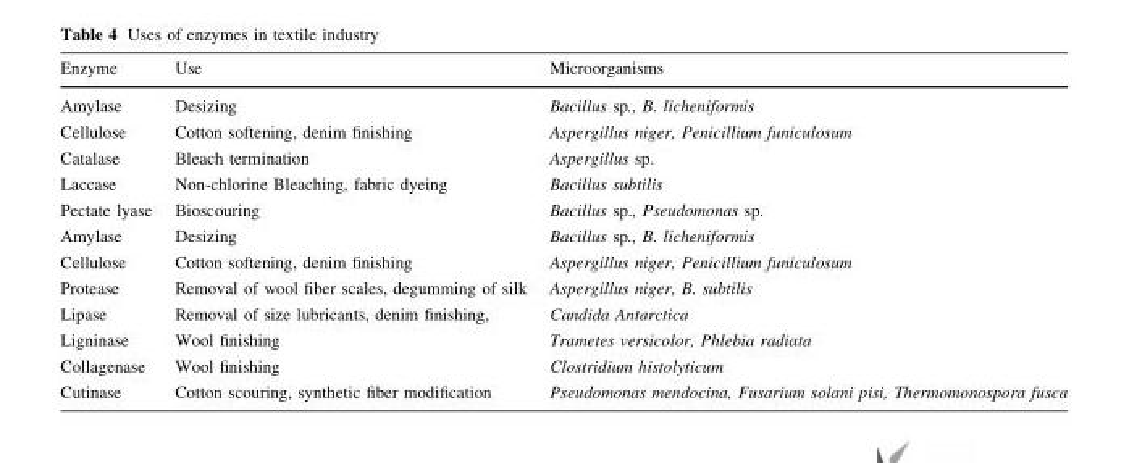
<table><thead><tr><td>Enzyme</td><td>Use</td><td>Microorganisms</td></tr></thead><tbody><tr><td>Amylase</td><td>Desizing</td><td>Bacillus sp., B. licheniformis</td></tr><tr><td>Cellulose</td><td>Cotton softening, denim finishing</td><td>Aspergillus niger, Penicillium funiculosum</td></tr><tr><td>Catalase</td><td>Bleach termination</td><td>Aspergillus sp.</td></tr><tr><td>Laccase</td><td>Non-chlorine Bleaching, fabric dyeing</td><td>Bacillus subtilis</td></tr><tr><td>Pectate lyase</td><td>Bioscouring</td><td>Bacillus sp., Pseudomonas sp.</td></tr><tr><td>Amylase</td><td>Desizing</td><td>Bacillus sp., B. licheniformis</td></tr><tr><td>Cellulose</td><td>Cotton softening, denim finishing</td><td>Aspergillus niger, Penicillium funiculosum</td></tr><tr><td>Protease</td><td>Removal of wool fiber scales, degumming of silk</td><td>Aspergillus niger, B. subtilis</td></tr><tr><td>Lipase</td><td>Removal of size lubricants, denim finishing,</td><td>Candida Antarctica</td></tr><tr><td>Ligninase</td><td>Wool finishing</td><td>Trametes versicolor, Phlebia radiata</td></tr><tr><td>Collagenase</td><td>Wool finishing</td><td>Clostridium histolyticum</td></tr><tr><td>Cutinase</td><td>Cotton scouring, synthetic fiber modification</td><td>Pseudomonas mendocina, Fusarium solani pisi, Thermomonospora fusca</td></tr></tbody></table>